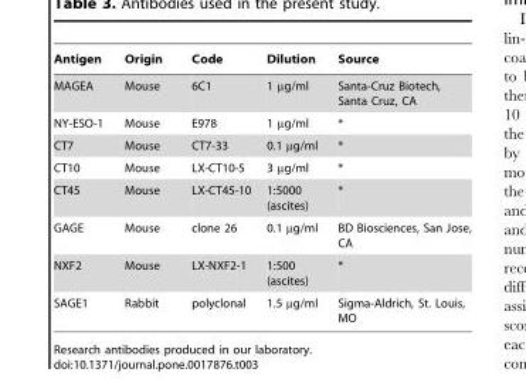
<table><thead><tr><td>Antigen</td><td>Origin</td><td>Code</td><td>Dilution</td><td>Source</td></tr></thead><tbody><tr><td>MAGEA</td><td>Mouse</td><td>6C1</td><td>1 µg/ml</td><td>Santa-Cruz Biotech, Santa Cruz, CA</td></tr><tr><td>NY-ESO-1</td><td>Mouse</td><td>E978</td><td>1 µg/ml</td><td>*</td></tr><tr><td>CT7</td><td>Mouse</td><td>CT7-33</td><td>0.1 µg/ml</td><td>*</td></tr><tr><td>CT10</td><td>Mouse</td><td>LX-CT10-5</td><td>3 µg/ml</td><td>*</td></tr><tr><td>CT45</td><td>Mouse</td><td>LX-CT45-10</td><td>1:5000 (ascites)</td><td>*</td></tr><tr><td>GAGE</td><td>Mouse</td><td>clone 26</td><td>0.1 µg/ml</td><td>BD Biosciences, San Jose, CA</td></tr><tr><td>NXF2</td><td>Mouse</td><td>LX-NXF2-1</td><td>1:500 (ascites)</td><td>*</td></tr><tr><td>SAGE1</td><td>Rabbit</td><td>polyclonal</td><td>1.5 µg/ml</td><td>Sigma-Aldrich, St. Louis, MO</td></tr></tbody></table>